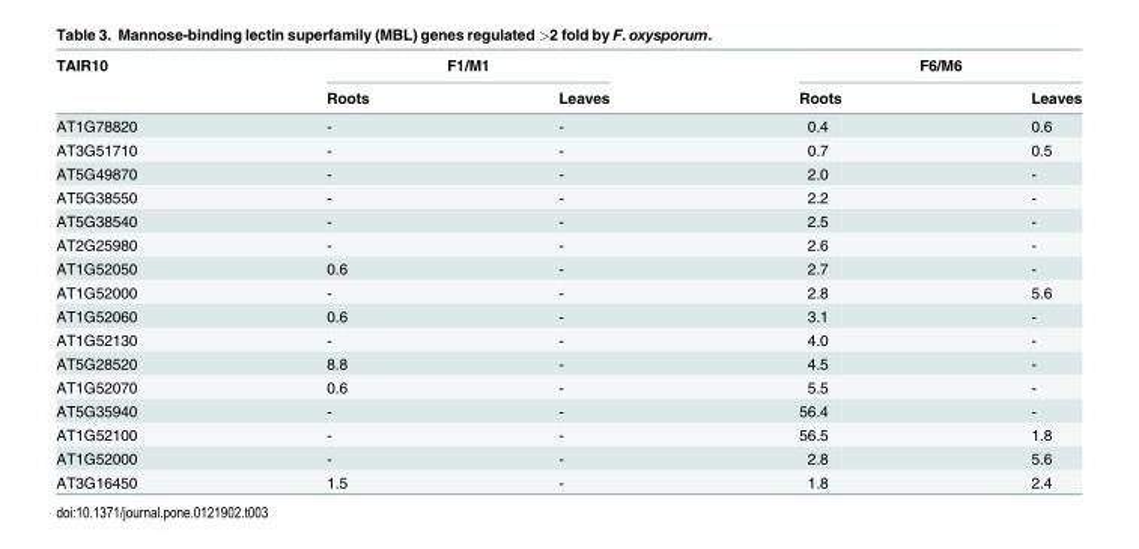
<table><thead><tr><td rowspan="2">TAIR10</td><td colspan="2">F1/M1</td><td colspan="2">F6/M6</td></tr><tr><td>Roots</td><td>Leaves</td><td>Roots</td><td>Leaves</td></tr></thead><tbody><tr><td>AT1G78820</td><td>-</td><td>-</td><td>0.4</td><td>0.6</td></tr><tr><td>AT3G51710</td><td>-</td><td>-</td><td>0.7</td><td>0.5</td></tr><tr><td>AT5G49870</td><td>-</td><td>-</td><td>2.0</td><td>-</td></tr><tr><td>AT5G38550</td><td>-</td><td>-</td><td>2.2</td><td>-</td></tr><tr><td>AT5G38540</td><td>-</td><td>-</td><td>2.5</td><td>-</td></tr><tr><td>AT2G25980</td><td>-</td><td>-</td><td>2.6</td><td>-</td></tr><tr><td>AT1G52050</td><td>0.6</td><td>-</td><td>2.7</td><td>-</td></tr><tr><td>AT1G52000</td><td>-</td><td>-</td><td>2.8</td><td>5.6</td></tr><tr><td>AT1G52060</td><td>0.6</td><td>-</td><td>3.1</td><td>-</td></tr><tr><td>AT1G52130</td><td>-</td><td>-</td><td>4.0</td><td>-</td></tr><tr><td>AT5G28520</td><td>8.8</td><td>-</td><td>4.5</td><td>-</td></tr><tr><td>AT1G52070</td><td>0.6</td><td>-</td><td>5.5</td><td>-</td></tr><tr><td>AT5G35940</td><td>-</td><td>-</td><td>56.4</td><td>-</td></tr><tr><td>AT1G52100</td><td>-</td><td>-</td><td>56.5</td><td>1.8</td></tr><tr><td>AT1G52000</td><td>-</td><td>-</td><td>2.8</td><td>5.6</td></tr><tr><td>AT3G16450</td><td>1.5</td><td>-</td><td>1.8</td><td>2.4</td></tr></tbody></table>